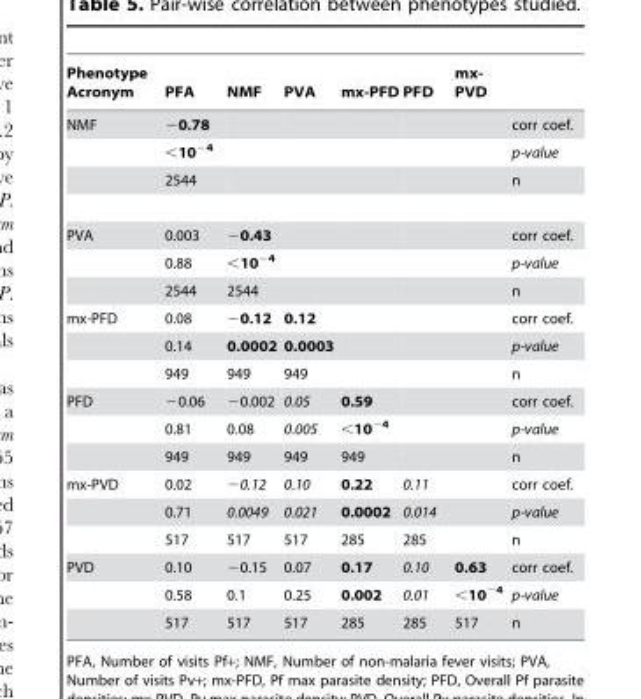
<table><thead><tr><td>Phenotype Acronym</td><td>PFA</td><td>NMF</td><td>PVA</td><td>mx-PFD</td><td>PFD</td><td>mx- PVD</td><td></td></tr></thead><tbody><tr><td rowspan="3">NMF</td><td>−0.78</td><td></td><td></td><td></td><td></td><td></td><td>corr coef.</td></tr><tr><td>&lt;10<sup>−4</sup></td><td></td><td></td><td></td><td></td><td></td><td>p-value</td></tr><tr><td>2544</td><td></td><td></td><td></td><td></td><td></td><td>n</td></tr><tr><td rowspan="3">PVA</td><td>0.003</td><td>−0.43</td><td></td><td></td><td></td><td></td><td>corr coef.</td></tr><tr><td>0.88</td><td>&lt;10<sup>−4</sup></td><td></td><td></td><td></td><td></td><td>p-value</td></tr><tr><td>2544</td><td>2544</td><td></td><td></td><td></td><td></td><td>n</td></tr><tr><td rowspan="3">mx-PFD</td><td>0.08</td><td>−0.12</td><td>0.12</td><td></td><td></td><td></td><td>corr coef.</td></tr><tr><td>0.14</td><td>0.0002</td><td>0.0003</td><td></td><td></td><td></td><td>p-value</td></tr><tr><td>949</td><td>949</td><td>949</td><td></td><td></td><td></td><td>n</td></tr><tr><td rowspan="3">PFD</td><td>−0.06</td><td>−0.002</td><td>0.05</td><td>0.59</td><td></td><td></td><td>corr coef.</td></tr><tr><td>0.81</td><td>0.08</td><td>0.005</td><td>&lt;10<sup>−4</sup></td><td></td><td></td><td>p-value</td></tr><tr><td>949</td><td>949</td><td>949</td><td>949</td><td></td><td></td><td>n</td></tr><tr><td rowspan="3">mx-PVD</td><td>0.02</td><td>−0.12</td><td>0.10</td><td>0.22</td><td>0.11</td><td></td><td>corr coef.</td></tr><tr><td>0.71</td><td>0.0049</td><td>0.021</td><td>0.0002</td><td>0.014</td><td></td><td>p-value</td></tr><tr><td>517</td><td>517</td><td>517</td><td>285</td><td>285</td><td></td><td>n</td></tr><tr><td rowspan="3">PVD</td><td>0.10</td><td>−0.15</td><td>0.07</td><td>0.17</td><td>0.10</td><td>0.63</td><td>corr coef.</td></tr><tr><td>0.58</td><td>0.1</td><td>0.25</td><td>0.002</td><td>0.01</td><td>&lt;10<sup>−4</sup></td><td>p-value</td></tr><tr><td>517</td><td>517</td><td>517</td><td>285</td><td>285</td><td>517</td><td>n</td></tr></tbody></table>